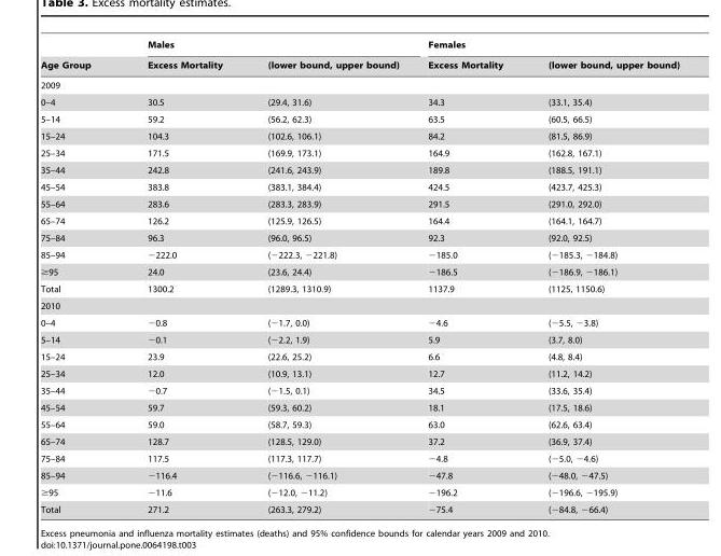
<table><thead><tr><td rowspan="2">Age Group</td><td colspan="2">Males</td><td colspan="2">Females</td></tr><tr><td>Excess Mortality</td><td>(lower bound, upper bound)</td><td>Excess Mortality</td><td>(lower bound, upper bound)</td></tr></thead><tbody><tr><td colspan="5">2009</td></tr><tr><td>0–4</td><td>30.5</td><td>(29.4, 31.6)</td><td>34.3</td><td>(33.1, 35.4)</td></tr><tr><td>5–14</td><td>59.2</td><td>(56.2, 62.3)</td><td>63.5</td><td>(60.5, 66.5)</td></tr><tr><td>15–24</td><td>104.3</td><td>(102.6, 106.1)</td><td>84.2</td><td>(81.5, 86.9)</td></tr><tr><td>25–34</td><td>171.5</td><td>(169.9, 173.1)</td><td>164.9</td><td>(162.8, 167.1)</td></tr><tr><td>35–44</td><td>242.8</td><td>(241.6, 243.9)</td><td>189.8</td><td>(188.5, 191.1)</td></tr><tr><td>45–54</td><td>383.8</td><td>(383.1, 384.4)</td><td>424.5</td><td>(423.7, 425.3)</td></tr><tr><td>55–64</td><td>283.6</td><td>(283.3, 283.9)</td><td>291.5</td><td>(291.0, 292.0)</td></tr><tr><td>65–74</td><td>126.2</td><td>(125.9, 126.5)</td><td>164.4</td><td>(164.1, 164.7)</td></tr><tr><td>75–84</td><td>96.3</td><td>(96.0, 96.5)</td><td>92.3</td><td>(92.0, 92.5)</td></tr><tr><td>85–94</td><td>−222.0</td><td>(−222.3, −221.8)</td><td>−185.0</td><td>(−185.3, −184.8)</td></tr><tr><td>≥95</td><td>24.0</td><td>(23.6, 24.4)</td><td>−186.5</td><td>(−186.9, −186.1)</td></tr><tr><td>Total</td><td>1300.2</td><td>(1289.3, 1310.9)</td><td>1137.9</td><td>(1125, 1150.6)</td></tr><tr><td colspan="5">2010</td></tr><tr><td>0–4</td><td>−0.8</td><td>(−1.7, 0.0)</td><td>−4.6</td><td>(−5.5, −3.8)</td></tr><tr><td>5–14</td><td>−0.1</td><td>(−2.2, 1.9)</td><td>5.9</td><td>(3.7, 8.0)</td></tr><tr><td>15–24</td><td>23.9</td><td>(22.6, 25.2)</td><td>6.6</td><td>(4.8, 8.4)</td></tr><tr><td>25–34</td><td>12.0</td><td>(10.9, 13.1)</td><td>12.7</td><td>(11.2, 14.2)</td></tr><tr><td>35–44</td><td>−0.7</td><td>(−1.5, 0.1)</td><td>34.5</td><td>(33.6, 35.4)</td></tr><tr><td>45–54</td><td>59.7</td><td>(59.3, 60.2)</td><td>18.1</td><td>(17.5, 18.6)</td></tr><tr><td>55–64</td><td>59.0</td><td>(58.7, 59.3)</td><td>63.0</td><td>(62.6, 63.4)</td></tr><tr><td>65–74</td><td>128.7</td><td>(128.5, 129.0)</td><td>37.2</td><td>(36.9, 37.4)</td></tr><tr><td>75–84</td><td>117.5</td><td>(117.3, 117.7)</td><td>−4.8</td><td>(−5.0, −4.6)</td></tr><tr><td>85–94</td><td>−116.4</td><td>(−116.6, −116.1)</td><td>−47.8</td><td>(−48.0, −47.5)</td></tr><tr><td>≥95</td><td>−11.6</td><td>(−12.0, −11.2)</td><td>−196.2</td><td>(−196.6, −195.9)</td></tr><tr><td>Total</td><td>271.2</td><td>(263.3, 279.2)</td><td>−75.4</td><td>(−84.8, −66.4)</td></tr></tbody></table>